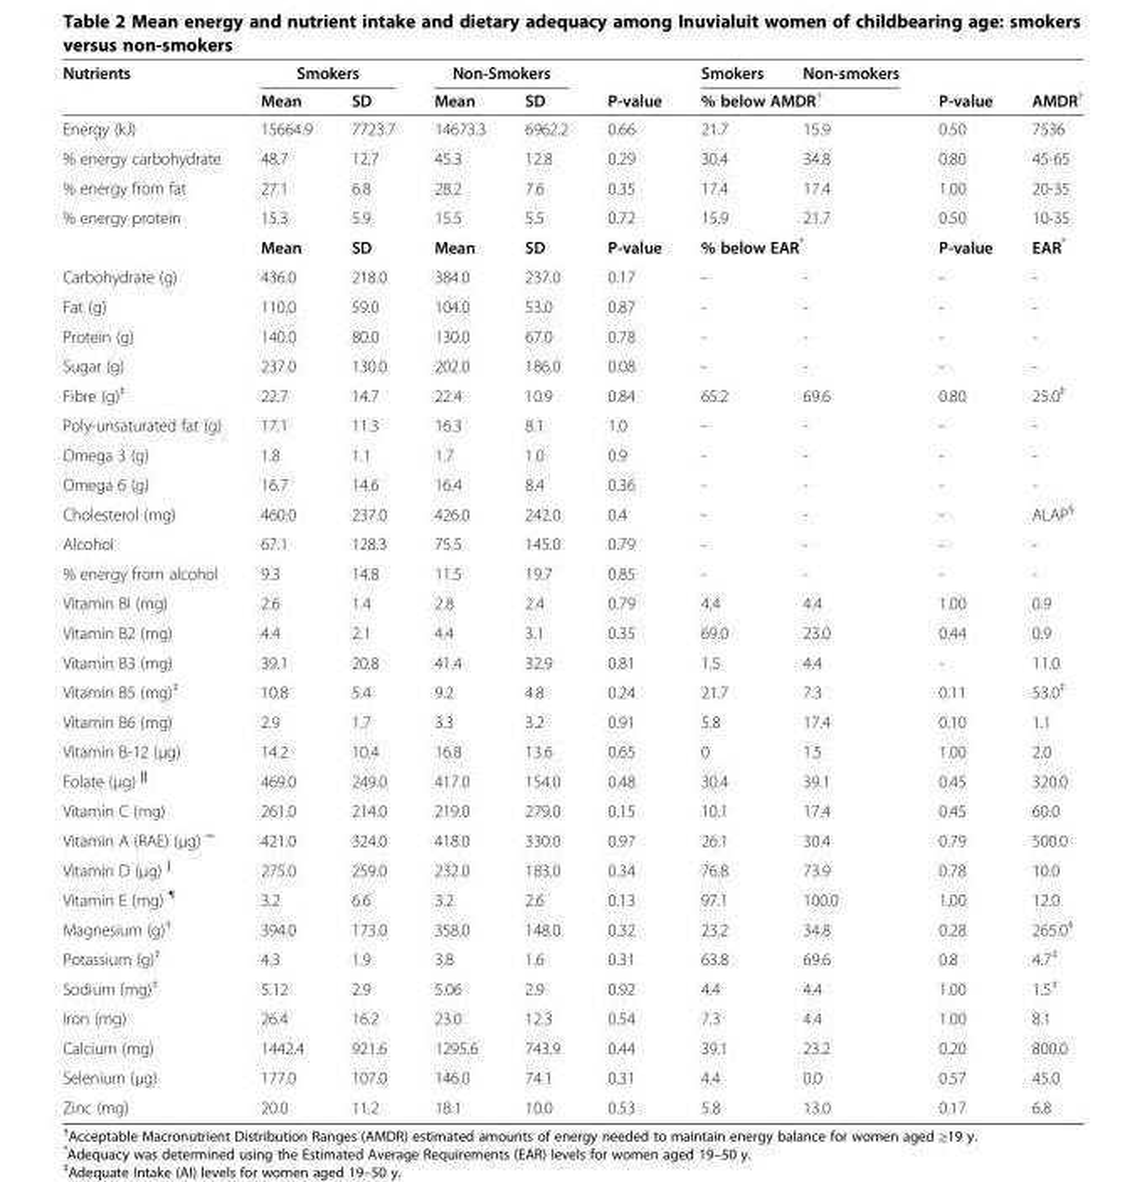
<table><thead><tr><td rowspan="2">Nutrients</td><td colspan="2">Smokers</td><td colspan="2">Non-Smokers</td><td rowspan="2">P-value</td><td>Smokers</td><td>Non-smokers</td><td rowspan="2">P-value</td><td rowspan="2">AMDR<sup>†</sup></td></tr><tr><td>Mean</td><td>SD</td><td>Mean</td><td>SD</td><td colspan="2">% below AMDR<sup>†</sup></td></tr></thead><tbody><tr><td>Energy (kJ)</td><td>15664.9</td><td>7723.7</td><td>14673.3</td><td>6962.2</td><td>0.66</td><td>21.7</td><td>15.9</td><td>0.50</td><td>7536</td></tr><tr><td>% energy carbohydrate</td><td>48.7</td><td>12.7</td><td>45.3</td><td>12.8</td><td>0.29</td><td>30.4</td><td>34.8</td><td>0.80</td><td>45-65</td></tr><tr><td>% energy from fat</td><td>27.1</td><td>6.8</td><td>28.2</td><td>7.6</td><td>0.35</td><td>17.4</td><td>17.4</td><td>1.00</td><td>20-35</td></tr><tr><td rowspan="2">% energy protein</td><td>15.3</td><td>5.9</td><td>15.5</td><td>5.5</td><td>0.72</td><td>15.9</td><td>21.7</td><td>0.50</td><td>10-35</td></tr><tr><td>Mean</td><td>SD</td><td>Mean</td><td>SD</td><td>P-value</td><td colspan="2">% below EAR*</td><td>P-value</td><td>EAR*</td></tr><tr><td>Carbohydrate (g)</td><td>436.0</td><td>218.0</td><td>384.0</td><td>237.0</td><td>0.17</td><td>-</td><td>-</td><td>-</td><td>-</td></tr><tr><td>Fat (g)</td><td>110.0</td><td>59.0</td><td>104.0</td><td>53.0</td><td>0.87</td><td>-</td><td>-</td><td>-</td><td>-</td></tr><tr><td>Protein (g)</td><td>140.0</td><td>80.0</td><td>130.0</td><td>67.0</td><td>0.78</td><td>-</td><td>-</td><td>-</td><td>-</td></tr><tr><td>Sugar (g)</td><td>237.0</td><td>130.0</td><td>202.0</td><td>186.0</td><td>0.08</td><td>-</td><td>-</td><td>-</td><td>-</td></tr><tr><td>Fibre (g)<sup>‡</sup></td><td>22.7</td><td>14.7</td><td>22.4</td><td>10.9</td><td>0.84</td><td>65.2</td><td>69.6</td><td>0.80</td><td>25.0<sup>‡</sup></td></tr><tr><td>Poly-unsaturated fat (g)</td><td>17.1</td><td>11.3</td><td>16.3</td><td>8.1</td><td>1.0</td><td>-</td><td>-</td><td>-</td><td>-</td></tr><tr><td>Omega 3 (g)</td><td>1.8</td><td>1.1</td><td>1.7</td><td>1.0</td><td>0.9</td><td>-</td><td>-</td><td>-</td><td>-</td></tr><tr><td>Omega 6 (g)</td><td>16.7</td><td>14.6</td><td>16.4</td><td>8.4</td><td>0.36</td><td>-</td><td>-</td><td>-</td><td>-</td></tr><tr><td>Cholesterol (mg)</td><td>460.0</td><td>237.0</td><td>426.0</td><td>242.0</td><td>0.4</td><td>-</td><td>-</td><td>-</td><td>ALAP<sup>§</sup></td></tr><tr><td>Alcohol</td><td>67.1</td><td>128.3</td><td>75.5</td><td>145.0</td><td>0.79</td><td>-</td><td>-</td><td>-</td><td>-</td></tr><tr><td>% energy from alcohol</td><td>9.3</td><td>14.8</td><td>11.5</td><td>19.7</td><td>0.85</td><td>-</td><td>-</td><td>-</td><td>-</td></tr><tr><td>Vitamin BI (mg)</td><td>2.6</td><td>1.4</td><td>2.8</td><td>2.4</td><td>0.79</td><td>4.4</td><td>4.4</td><td>1.00</td><td>0.9</td></tr><tr><td>Vitamin B2 (mg)</td><td>4.4</td><td>2.1</td><td>4.4</td><td>3.1</td><td>0.35</td><td>69.0</td><td>23.0</td><td>0.44</td><td>0.9</td></tr><tr><td>Vitamin B3 (mg)</td><td>39.1</td><td>20.8</td><td>41.4</td><td>32.9</td><td>0.81</td><td>1.5</td><td>4.4</td><td>-</td><td>11.0</td></tr><tr><td>Vitamin B5 (mg)<sup>‡</sup></td><td>10.8</td><td>5.4</td><td>9.2</td><td>4.8</td><td>0.24</td><td>21.7</td><td>7.3</td><td>0.11</td><td>53.0<sup>‡</sup></td></tr><tr><td>Vitamin B6 (mg)</td><td>2.9</td><td>1.7</td><td>3.3</td><td>3.2</td><td>0.91</td><td>5.8</td><td>17.4</td><td>0.10</td><td>1.1</td></tr><tr><td>Vitamin B-12 (μg)</td><td>14.2</td><td>10.4</td><td>16.8</td><td>13.6</td><td>0.65</td><td>0</td><td>1.5</td><td>1.00</td><td>2.0</td></tr><tr><td>Folate (μg) <sup>||</sup></td><td>469.0</td><td>249.0</td><td>417.0</td><td>154.0</td><td>0.48</td><td>30.4</td><td>39.1</td><td>0.45</td><td>320.0</td></tr><tr><td>Vitamin C (mg)</td><td>261.0</td><td>214.0</td><td>219.0</td><td>279.0</td><td>0.15</td><td>10.1</td><td>17.4</td><td>0.45</td><td>60.0</td></tr><tr><td>Vitamin A (RAE) (μg) <sup>∞</sup></td><td>421.0</td><td>324.0</td><td>418.0</td><td>330.0</td><td>0.97</td><td>26.1</td><td>30.4</td><td>0.79</td><td>500.0</td></tr><tr><td>Vitamin D (μg) <sup>|</sup></td><td>275.0</td><td>259.0</td><td>232.0</td><td>183.0</td><td>0.34</td><td>76.8</td><td>73.9</td><td>0.78</td><td>10.0</td></tr><tr><td>Vitamin E (mg) <sup>¶</sup></td><td>3.2</td><td>6.6</td><td>3.2</td><td>2.6</td><td>0.13</td><td>97.1</td><td>100.0</td><td>1.00</td><td>12.0</td></tr><tr><td>Magnesium (g)<sup>‡</sup></td><td>394.0</td><td>173.0</td><td>358.0</td><td>148.0</td><td>0.32</td><td>23.2</td><td>34.8</td><td>0.28</td><td>265.0<sup>‡</sup></td></tr><tr><td>Potassium (g)<sup>‡</sup></td><td>4.3</td><td>1.9</td><td>3.8</td><td>1.6</td><td>0.31</td><td>63.8</td><td>69.6</td><td>0.8</td><td>4.7<sup>‡</sup></td></tr><tr><td>Sodium (mg)<sup>‡</sup></td><td>5.12</td><td>2.9</td><td>5.06</td><td>2.9</td><td>0.92</td><td>4.4</td><td>4.4</td><td>1.00</td><td>1.5<sup>‡</sup></td></tr><tr><td>Iron (mg)</td><td>26.4</td><td>16.2</td><td>23.0</td><td>12.3</td><td>0.54</td><td>7.3</td><td>4.4</td><td>1.00</td><td>8.1</td></tr><tr><td>Calcium (mg)</td><td>1442.4</td><td>921.6</td><td>1295.6</td><td>743.9</td><td>0.44</td><td>39.1</td><td>23.2</td><td>0.20</td><td>800.0</td></tr><tr><td>Selenium (μg)</td><td>177.0</td><td>107.0</td><td>146.0</td><td>74.1</td><td>0.31</td><td>4.4</td><td>0.0</td><td>0.57</td><td>45.0</td></tr><tr><td>Zinc (mg)</td><td>20.0</td><td>11.2</td><td>18.1</td><td>10.0</td><td>0.53</td><td>5.8</td><td>13.0</td><td>0.17</td><td>6.8</td></tr></tbody></table>